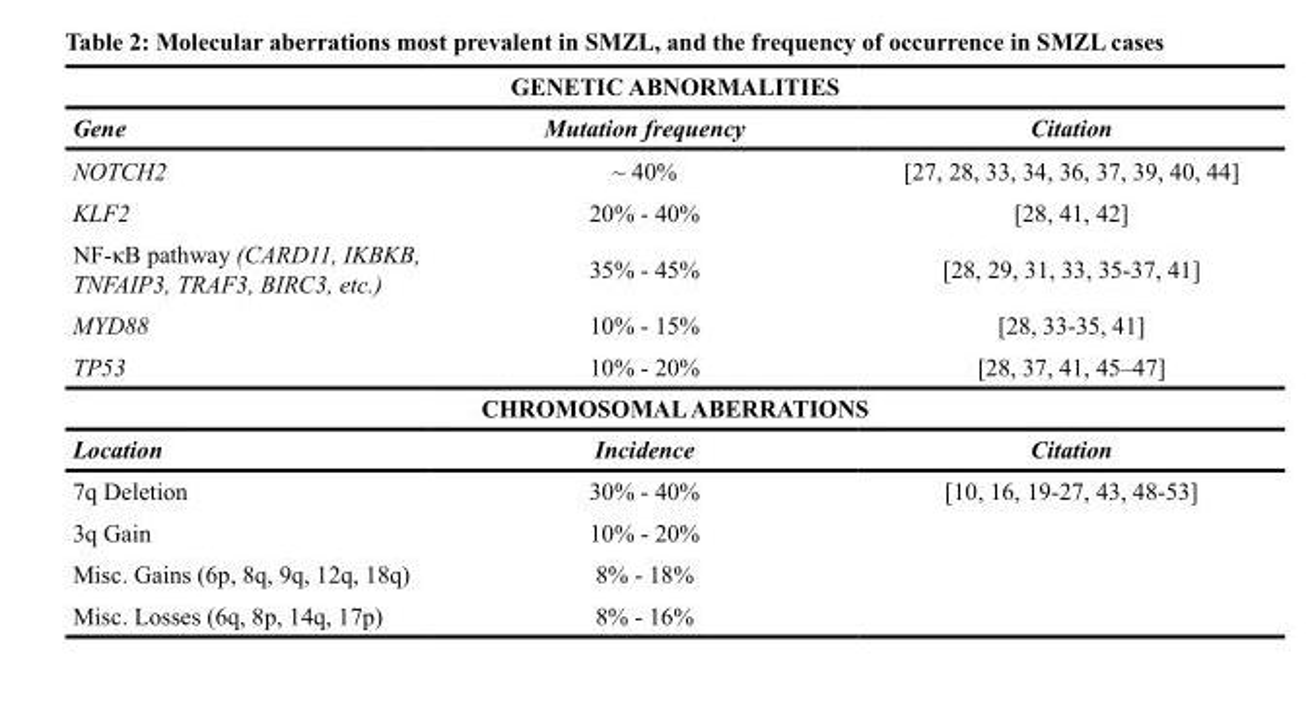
<table><thead><tr><td colspan="3">GENETIC ABNORMALITIES</td></tr><tr><td>Gene</td><td>Mutation frequency</td><td>Citation</td></tr></thead><tbody><tr><td>NOTCH2</td><td>~ 40%</td><td>[27, 28, 33, 34, 36, 37, 39, 40, 44]</td></tr><tr><td>KLF2</td><td>20% - 40%</td><td>[28, 41, 42]</td></tr><tr><td>NF-κB pathway (CARD11, IKBKB, TNFAIP3, TRAF3, BIRC3, etc.)</td><td>35% - 45%</td><td>[28, 29, 31, 33, 35-37, 41]</td></tr><tr><td>MYD88</td><td>10% - 15%</td><td>[28, 33-35, 41]</td></tr><tr><td>TP53</td><td>10% - 20%</td><td>[28, 37, 41, 45–47]</td></tr><tr><td colspan="3">CHROMOSOMAL ABERRATIONS</td></tr><tr><td>Location</td><td>Incidence</td><td>Citation</td></tr><tr><td>7q Deletion</td><td>30% - 40%</td><td>[10, 16, 19-27, 43, 48-53]</td></tr><tr><td>3q Gain</td><td>10% - 20%</td><td></td></tr><tr><td>Misc. Gains (6p, 8q, 9q, 12q, 18q)</td><td>8% - 18%</td><td></td></tr><tr><td>Misc. Losses (6q, 8p, 14q, 17p)</td><td>8% - 16%</td><td></td></tr></tbody></table>